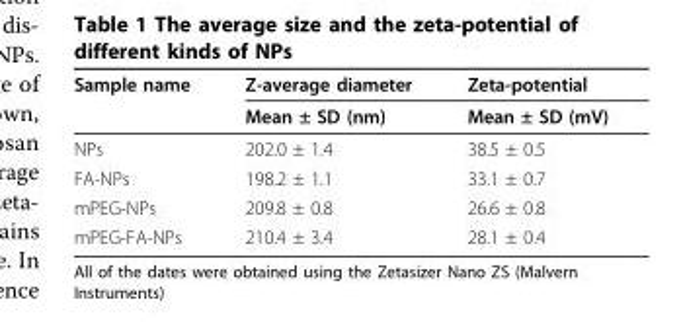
<table><thead><tr><td rowspan="2">Sample name</td><td rowspan="2">Z-average diameter Mean ± SD (nm)</td><td rowspan="2">Zeta-potential Mean ± SD (mV)</td></tr><tr></tr></thead><tbody><tr><td>NPs</td><td>202.0 ± 1.4</td><td>38.5 ± 0.5</td></tr><tr><td>FA-NPs</td><td>198.2 ± 1.1</td><td>33.1 ± 0.7</td></tr><tr><td>mPEG-NPs</td><td>209.8 ± 0.8</td><td>26.6 ± 0.8</td></tr><tr><td>mPEG-FA-NPs</td><td>210.4 ± 3.4</td><td>28.1 ± 0.4</td></tr></tbody></table>